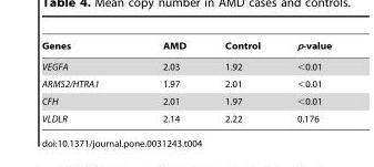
<table><thead><tr><td>Genes</td><td>AMD</td><td>Control</td><td>p-value</td></tr></thead><tbody><tr><td>VEGFA</td><td>2.03</td><td>1.92</td><td>&lt;0.01</td></tr><tr><td>ARMS2/HTRA1</td><td>1.97</td><td>2.01</td><td>&lt;0.01</td></tr><tr><td>CFH</td><td>2.01</td><td>1.97</td><td>&lt;0.01</td></tr><tr><td>VLDLR</td><td>2.14</td><td>2.22</td><td>0.176</td></tr></tbody></table>